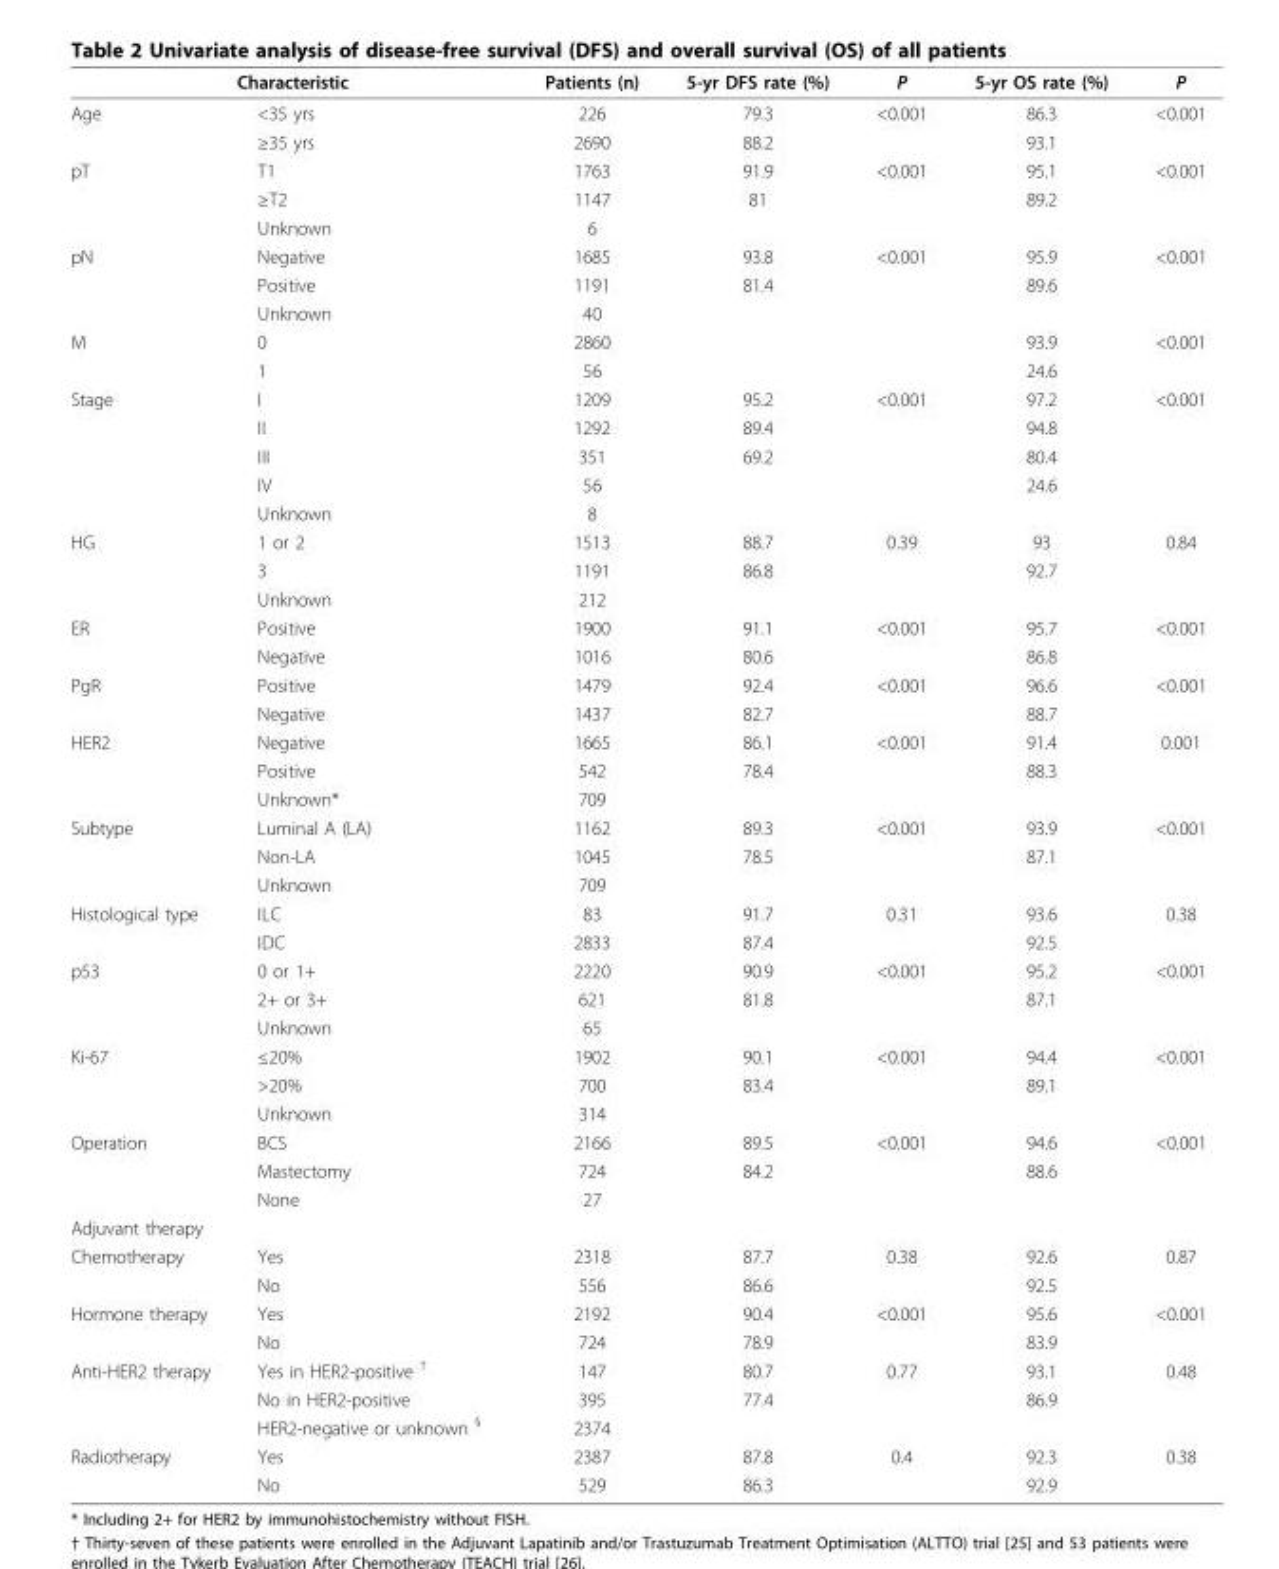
<table><thead><tr><td colspan="2">Characteristic</td><td rowspan="2">Patients (n) 226</td><td rowspan="2">5-yr DFS rate (%) 79.3</td><td rowspan="2">P &lt;0.001</td><td rowspan="2">5-yr OS rate (%) 86.3</td><td rowspan="2">P &lt;0.001</td></tr><tr><td>Age</td><td>&lt;35 yrs</td></tr></thead><tbody><tr><td></td><td>≥35 yrs</td><td>2690</td><td>88.2</td><td></td><td>93.1</td><td></td></tr><tr><td rowspan="3">pT</td><td>T1</td><td>1763</td><td>91.9</td><td>&lt;0.001</td><td>95.1</td><td>&lt;0.001</td></tr><tr><td>≥T2</td><td>1147</td><td>81</td><td></td><td>89.2</td><td></td></tr><tr><td>Unknown</td><td>6</td><td></td><td></td><td></td><td></td></tr><tr><td rowspan="3">pN</td><td>Negative</td><td>1685</td><td>93.8</td><td>&lt;0.001</td><td>95.9</td><td>&lt;0.001</td></tr><tr><td>Positive</td><td>1191</td><td>81.4</td><td></td><td>89.6</td><td></td></tr><tr><td>Unknown</td><td>40</td><td></td><td></td><td></td><td></td></tr><tr><td rowspan="2">M</td><td>0</td><td>2860</td><td></td><td></td><td>93.9</td><td>&lt;0.001</td></tr><tr><td>1</td><td>56</td><td></td><td></td><td>24.6</td><td></td></tr><tr><td rowspan="5">Stage</td><td>I</td><td>1209</td><td>95.2</td><td>&lt;0.001</td><td>97.2</td><td>&lt;0.001</td></tr><tr><td>II</td><td>1292</td><td>89.4</td><td></td><td>94.8</td><td></td></tr><tr><td>III</td><td>351</td><td>69.2</td><td></td><td>80.4</td><td></td></tr><tr><td>IV</td><td>56</td><td></td><td></td><td>24.6</td><td></td></tr><tr><td>Unknown</td><td>8</td><td></td><td></td><td></td><td></td></tr><tr><td rowspan="3">HG</td><td>1 or 2</td><td>1513</td><td>88.7</td><td>0.39</td><td>93</td><td>0.84</td></tr><tr><td>3</td><td>1191</td><td>86.8</td><td></td><td>92.7</td><td></td></tr><tr><td>Unknown</td><td>212</td><td></td><td></td><td></td><td></td></tr><tr><td rowspan="2">ER</td><td>Positive</td><td>1900</td><td>91.1</td><td>&lt;0.001</td><td>95.7</td><td>&lt;0.001</td></tr><tr><td>Negative</td><td>1016</td><td>80.6</td><td></td><td>86.8</td><td></td></tr><tr><td rowspan="2">PgR</td><td>Positive</td><td>1479</td><td>92.4</td><td>&lt;0.001</td><td>96.6</td><td>&lt;0.001</td></tr><tr><td>Negative</td><td>1437</td><td>82.7</td><td></td><td>88.7</td><td></td></tr><tr><td rowspan="3">HER2</td><td>Negative</td><td>1665</td><td>86.1</td><td>&lt;0.001</td><td>91.4</td><td>0.001</td></tr><tr><td>Positive</td><td>542</td><td>78.4</td><td></td><td>88.3</td><td></td></tr><tr><td>Unknown*</td><td>709</td><td></td><td></td><td></td><td></td></tr><tr><td rowspan="3">Subtype</td><td>Luminal A (LA)</td><td>1162</td><td>89.3</td><td>&lt;0.001</td><td>93.9</td><td>&lt;0.001</td></tr><tr><td>Non-LA</td><td>1045</td><td>78.5</td><td></td><td>87.1</td><td></td></tr><tr><td>Unknown</td><td>709</td><td></td><td></td><td></td><td></td></tr><tr><td rowspan="2">Histological type</td><td>ILC</td><td>83</td><td>91.7</td><td>0.31</td><td>93.6</td><td>0.38</td></tr><tr><td>IDC</td><td>2833</td><td>87.4</td><td></td><td>92.5</td><td></td></tr><tr><td rowspan="3">p53</td><td>0 or 1+</td><td>2220</td><td>90.9</td><td>&lt;0.001</td><td>95.2</td><td>&lt;0.001</td></tr><tr><td>2+ or 3+</td><td>621</td><td>81.8</td><td></td><td>87.1</td><td></td></tr><tr><td>Unknown</td><td>65</td><td></td><td></td><td></td><td></td></tr><tr><td rowspan="3">Ki-67</td><td>≤20%</td><td>1902</td><td>90.1</td><td>&lt;0.001</td><td>94.4</td><td>&lt;0.001</td></tr><tr><td>&gt;20%</td><td>700</td><td>83.4</td><td></td><td>89.1</td><td></td></tr><tr><td>Unknown</td><td>314</td><td></td><td></td><td></td><td></td></tr><tr><td rowspan="3">Operation</td><td>BCS</td><td>2166</td><td>89.5</td><td>&lt;0.001</td><td>94.6</td><td>&lt;0.001</td></tr><tr><td>Mastectomy</td><td>724</td><td>84.2</td><td></td><td>88.6</td><td></td></tr><tr><td>None</td><td>27</td><td></td><td></td><td></td><td></td></tr><tr><td colspan="7">Adjuvant therapy</td></tr><tr><td rowspan="2">Chemotherapy</td><td>Yes</td><td>2318</td><td>87.7</td><td>0.38</td><td>92.6</td><td>0.87</td></tr><tr><td>No</td><td>556</td><td>86.6</td><td></td><td>92.5</td><td></td></tr><tr><td rowspan="2">Hormone therapy</td><td>Yes</td><td>2192</td><td>90.4</td><td>&lt;0.001</td><td>95.6</td><td>&lt;0.001</td></tr><tr><td>No</td><td>724</td><td>78.9</td><td></td><td>83.9</td><td></td></tr><tr><td rowspan="3">Anti-HER2 therapy</td><td>Yes in HER2-positive <sup>†</sup></td><td>147</td><td>80.7</td><td>0.77</td><td>93.1</td><td>0.48</td></tr><tr><td>No in HER2-positive</td><td>395</td><td>77.4</td><td></td><td>86.9</td><td></td></tr><tr><td>HER2-negative or unknown <sup>§</sup></td><td>2374</td><td></td><td></td><td></td><td></td></tr><tr><td rowspan="2">Radiotherapy</td><td>Yes</td><td>2387</td><td>87.8</td><td>0.4</td><td>92.3</td><td>0.38</td></tr><tr><td>No</td><td>529</td><td>86.3</td><td></td><td>92.9</td><td></td></tr></tbody></table>